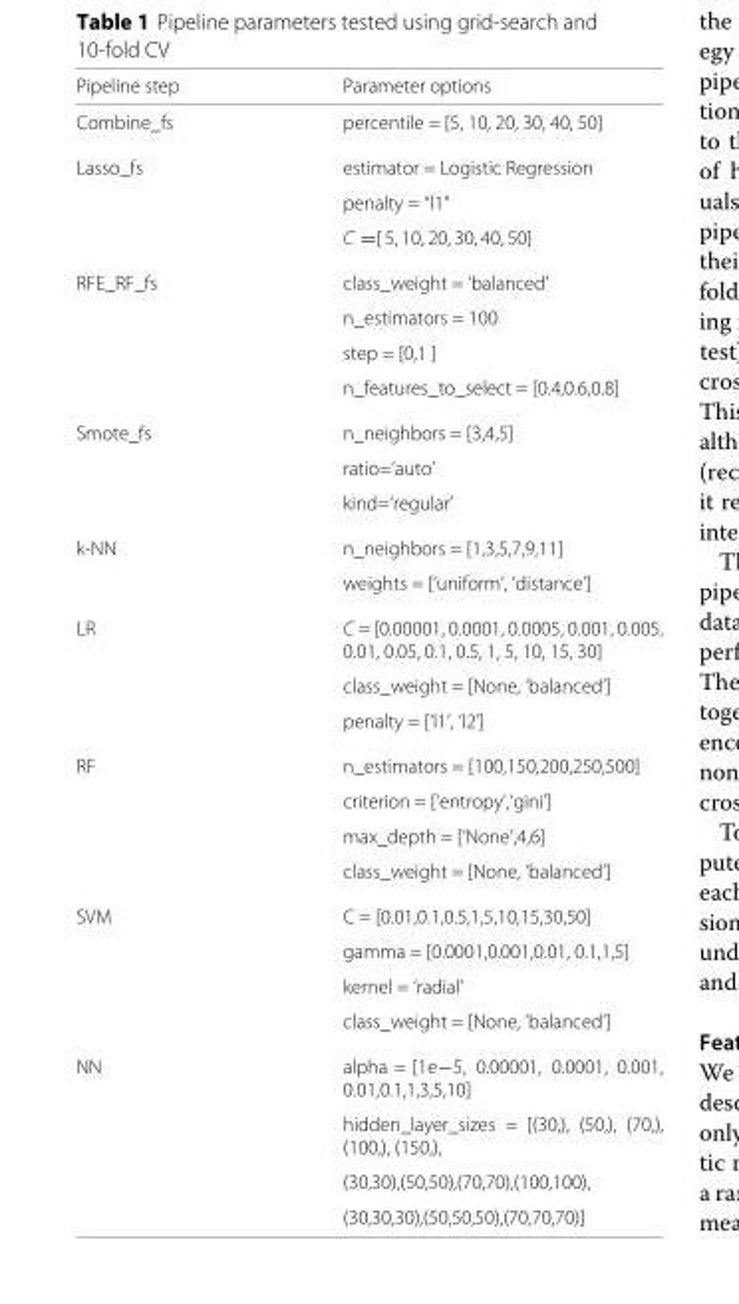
<table><thead><tr><td>Pipeline step</td><td>Parameter options</td></tr></thead><tbody><tr><td>Combine_fs</td><td>percentile = [5, 10, 20, 30, 40, 50]</td></tr><tr><td rowspan="3">Lasso_fs</td><td>estimator = Logistic Regression</td></tr><tr><td>penalty = “l1”</td></tr><tr><td>C =[ 5, 10, 20, 30, 40, 50]</td></tr><tr><td rowspan="4">RFE_RF_fs</td><td>class_weight = ‘balanced’</td></tr><tr><td>n_estimators = 100</td></tr><tr><td>step = [0,1 ]</td></tr><tr><td>n_features_to_select = [0.4,0.6,0.8]</td></tr><tr><td rowspan="3">Smote_fs</td><td>n_neighbors = [3,4,5]</td></tr><tr><td>ratio=‘auto’</td></tr><tr><td>kind=‘regular’</td></tr><tr><td rowspan="2">k-NN</td><td>n_neighbors = [1,3,5,7,9,11]</td></tr><tr><td>weights = [‘uniform’, ‘distance’]</td></tr><tr><td rowspan="3">LR</td><td>C = [0.00001, 0.0001, 0.0005, 0.001, 0.005, 0.01, 0.05, 0.1, 0.5, 1, 5, 10, 15, 30]</td></tr><tr><td>class_weight = [None, ‘balanced’]</td></tr><tr><td>penalty = [‘l1’, ‘l2’]</td></tr><tr><td rowspan="4">RF</td><td>n_estimators = [100,150,200,250,500]</td></tr><tr><td>criterion = [‘entropy’,‘gini’]</td></tr><tr><td>max_depth = [‘None’,4,6]</td></tr><tr><td>class_weight = [None, ‘balanced’]</td></tr><tr><td rowspan="4">SVM</td><td>C = [0.01,0.1,0.5,1,5,10,15,30,50]</td></tr><tr><td>gamma = [0.0001,0.001,0.01, 0.1,1,5]</td></tr><tr><td>kernel = ‘radial’</td></tr><tr><td>class_weight = [None, ’balanced’]</td></tr><tr><td rowspan="4">NN</td><td>alpha = [1e−5, 0.00001, 0.0001, 0.001, 0.01,0.1,1,3,5,10]</td></tr><tr><td>hidden_layer_sizes = [(30,), (50,), (70,), (100,), (150,),</td></tr><tr><td>(30,30),(50,50),(70,70),(100,100),</td></tr><tr><td>(30,30,30),(50,50,50),(70,70,70)]</td></tr></tbody></table>